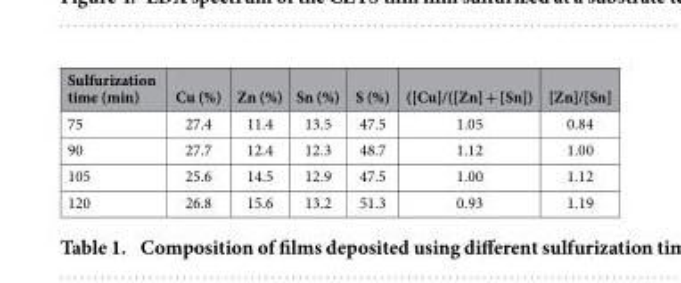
<table><thead><tr><td>Sulfurization time (min)</td><td>Cu (%)</td><td>Zn (%)</td><td>Sn (%)</td><td>S (%)</td><td>([Cu]/([Zn] + [Sn])</td><td>[Zn]/[Sn]</td></tr></thead><tbody><tr><td>75</td><td>27.4</td><td>11.4</td><td>13.5</td><td>47.5</td><td>1.05</td><td>0.84</td></tr><tr><td>90</td><td>27.7</td><td>12.4</td><td>12.3</td><td>48.7</td><td>1.12</td><td>1.00</td></tr><tr><td>105</td><td>25.6</td><td>14.5</td><td>12.9</td><td>47.5</td><td>1.00</td><td>1.12</td></tr><tr><td>120</td><td>26.8</td><td>15.6</td><td>13.2</td><td>51.3</td><td>0.93</td><td>1.19</td></tr></tbody></table>